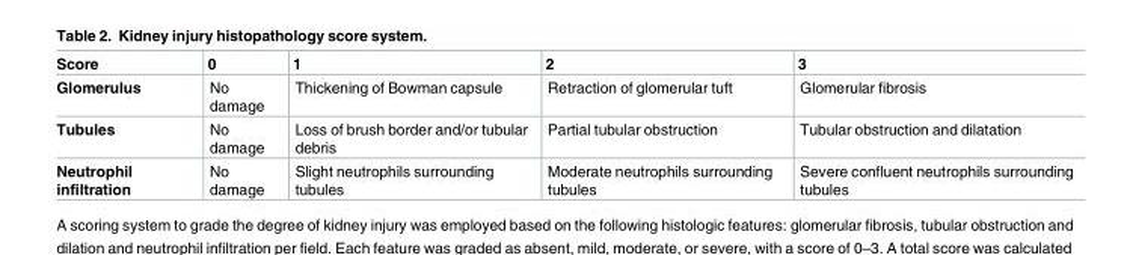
<table><thead><tr><td>Score</td><td>0</td><td>1</td><td>2</td><td>3</td></tr></thead><tbody><tr><td>Glomerulus</td><td>No damage</td><td>Thickening of Bowman capsule</td><td>Retraction of glomerular tuft</td><td>Glomerular fibrosis</td></tr><tr><td>Tubules</td><td>No damage</td><td>Loss of brush border and/or tubular debris</td><td>Partial tubular obstruction</td><td>Tubular obstruction and dilatation</td></tr><tr><td>Neutrophil infiltration</td><td>No damage</td><td>Slight neutrophils surrounding tubules</td><td>Moderate neutrophils surrounding tubules</td><td>Severe confluent neutrophils surrounding tubules</td></tr></tbody></table>